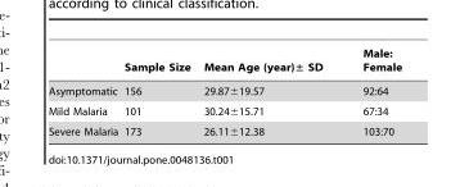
<table><thead><tr><td></td><td>Sample Size</td><td>Mean Age (year)± SD</td><td>Male: Female</td></tr></thead><tbody><tr><td>Asymptomatic</td><td>156</td><td>29.87±19.57</td><td>92:64</td></tr><tr><td>Mild Malaria</td><td>101</td><td>30.24±15.71</td><td>67:34</td></tr><tr><td>Severe Malaria</td><td>173</td><td>26.11±12.38</td><td>103:70</td></tr></tbody></table>